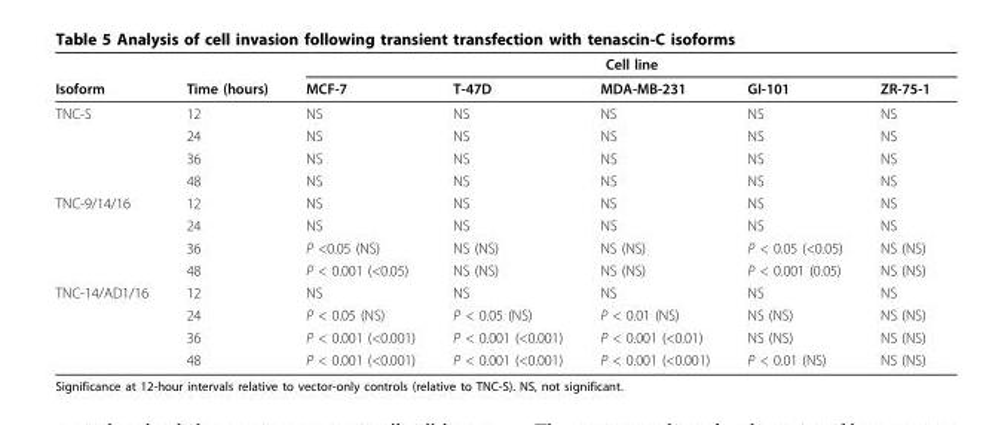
<table><thead><tr><td rowspan="2">Isoform</td><td rowspan="2">Time (hours)</td><td colspan="5">Cell line</td></tr><tr><td>MCF-7</td><td>T-47D</td><td>MDA-MB-231</td><td>GI-101</td><td>ZR-75-1</td></tr></thead><tbody><tr><td rowspan="4">TNC-S</td><td>12</td><td>NS</td><td>NS</td><td>NS</td><td>NS</td><td>NS</td></tr><tr><td>24</td><td>NS</td><td>NS</td><td>NS</td><td>NS</td><td>NS</td></tr><tr><td>36</td><td>NS</td><td>NS</td><td>NS</td><td>NS</td><td>NS</td></tr><tr><td>48</td><td>NS</td><td>NS</td><td>NS</td><td>NS</td><td>NS</td></tr><tr><td rowspan="4">TNC-9/14/16</td><td>12</td><td>NS</td><td>NS</td><td>NS</td><td>NS</td><td>NS</td></tr><tr><td>24</td><td>NS</td><td>NS</td><td>NS</td><td>NS</td><td>NS</td></tr><tr><td>36</td><td>P &lt;0.05 (NS)</td><td>NS (NS)</td><td>NS (NS)</td><td>P &lt; 0.05 (&lt;0.05)</td><td>NS (NS)</td></tr><tr><td>48</td><td>P &lt; 0.001 (&lt;0.05)</td><td>NS (NS)</td><td>NS (NS)</td><td>P &lt; 0.001 (0.05)</td><td>NS (NS)</td></tr><tr><td rowspan="4">TNC-14/AD1/16</td><td>12</td><td>NS</td><td>NS</td><td>NS</td><td>NS</td><td>NS</td></tr><tr><td>24</td><td>P &lt; 0.05 (NS)</td><td>P &lt; 0.05 (NS)</td><td>P &lt; 0.01 (NS)</td><td>NS (NS)</td><td>NS (NS)</td></tr><tr><td>36</td><td>P &lt; 0.001 (&lt;0.001)</td><td>P &lt; 0.001 (&lt;0.001)</td><td>P &lt; 0.001 (&lt;0.01)</td><td>NS (NS)</td><td>NS (NS)</td></tr><tr><td>48</td><td>P &lt; 0.001 (&lt;0.001)</td><td>P &lt; 0.001 (&lt;0.001)</td><td>P &lt; 0.001 (&lt;0.001)</td><td>P &lt; 0.01 (NS)</td><td>NS (NS)</td></tr></tbody></table>